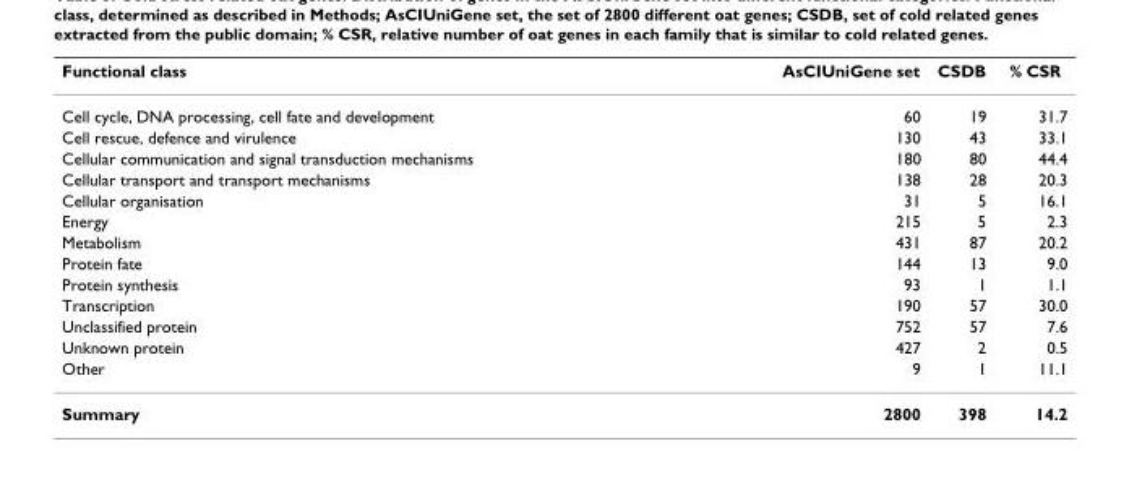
<table><thead><tr><td>Functional class</td><td>AsCIUniGene set</td><td>CSDB</td><td>% CSR</td></tr></thead><tbody><tr><td>Cell cycle, DNA processing, cell fate and development</td><td>60</td><td>19</td><td>31.7</td></tr><tr><td>Cell rescue, defence and virulence</td><td>130</td><td>43</td><td>33.1</td></tr><tr><td>Cellular communication and signal transduction mechanisms</td><td>180</td><td>80</td><td>44.4</td></tr><tr><td>Cellular transport and transport mechanisms</td><td>138</td><td>28</td><td>20.3</td></tr><tr><td>Cellular organisation</td><td>31</td><td>5</td><td>16.1</td></tr><tr><td>Energy</td><td>215</td><td>5</td><td>2.3</td></tr><tr><td>Metabolism</td><td>431</td><td>87</td><td>20.2</td></tr><tr><td>Protein fate</td><td>144</td><td>13</td><td>9.0</td></tr><tr><td>Protein synthesis</td><td>93</td><td>1</td><td>1.1</td></tr><tr><td>Transcription</td><td>190</td><td>57</td><td>30.0</td></tr><tr><td>Unclassified protein</td><td>752</td><td>57</td><td>7.6</td></tr><tr><td>Unknown protein</td><td>427</td><td>2</td><td>0.5</td></tr><tr><td>Other</td><td>9</td><td>1</td><td>11.1</td></tr><tr><td>Summary</td><td>2800</td><td>398</td><td>14.2</td></tr></tbody></table>